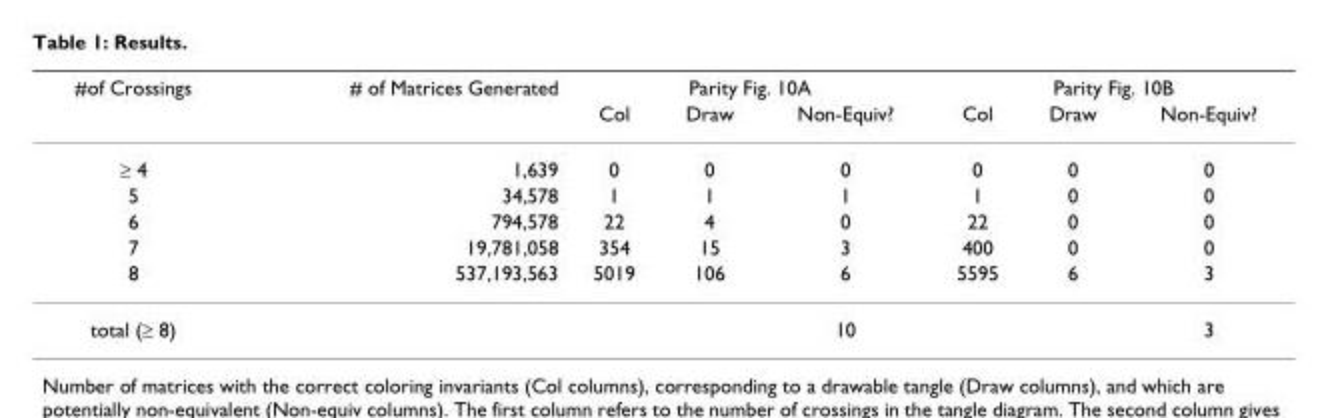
<table><thead><tr><td rowspan="2">#of Crossings</td><td rowspan="2"># of Matrices Generated</td><td colspan="3">Parity Fig. 10A</td><td colspan="3">Parity Fig. 10B</td></tr><tr><td>Col</td><td>Draw</td><td>Non-Equiv?</td><td>Col</td><td>Draw</td><td>Non-Equiv?</td></tr></thead><tbody><tr><td>≥ 4</td><td>1,639</td><td>0</td><td>0</td><td>0</td><td>0</td><td>0</td><td>0</td></tr><tr><td>5</td><td>34,578</td><td>1</td><td>1</td><td>1</td><td>1</td><td>0</td><td>0</td></tr><tr><td>6</td><td>794,578</td><td>22</td><td>4</td><td>0</td><td>22</td><td>0</td><td>0</td></tr><tr><td>7</td><td>19,781,058</td><td>354</td><td>15</td><td>3</td><td>400</td><td>0</td><td>0</td></tr><tr><td>8</td><td>537,193,563</td><td>5019</td><td>106</td><td>6</td><td>5595</td><td>6</td><td>3</td></tr><tr><td>total (≥ 8)</td><td></td><td></td><td></td><td>10</td><td></td><td></td><td>3</td></tr></tbody></table>